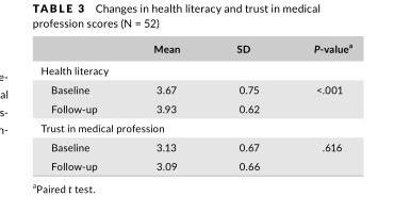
<table><thead><tr><td></td><td>Mean</td><td>SD</td><td>P- value<sup>a</sup></td></tr></thead><tbody><tr><td colspan="4">Health literacy</td></tr><tr><td>Baseline</td><td>3.67</td><td>0.75</td><td rowspan="2">&lt;.001</td></tr><tr><td>Follow- up</td><td>3.93</td><td>0.62</td></tr><tr><td colspan="4">Trust in medical profession</td></tr><tr><td>Baseline</td><td>3.13</td><td>0.67</td><td rowspan="2">.616</td></tr><tr><td>Follow- up</td><td>3.09</td><td>0.66</td></tr></tbody></table>